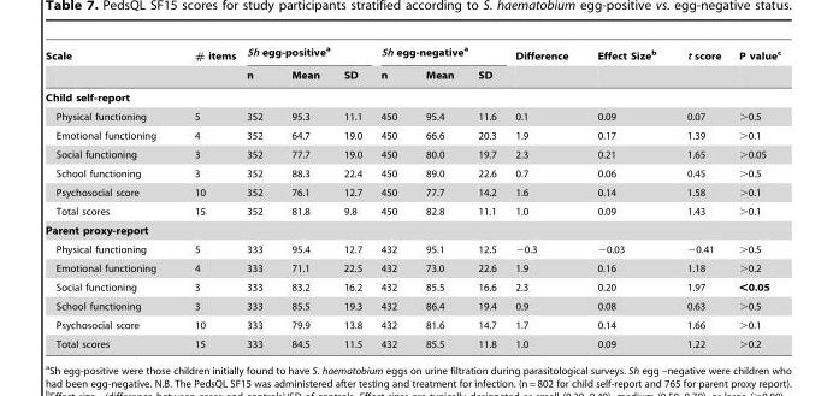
<table><thead><tr><td rowspan="2">Scale</td><td rowspan="2"># items</td><td colspan="3">Sh egg-positive<sup>a</sup></td><td colspan="3">Sh egg-negative<sup>a</sup></td><td rowspan="2">Difference</td><td rowspan="2">Effect Size<sup>b</sup></td><td rowspan="2">t score</td><td rowspan="2">P value<sup>c</sup></td></tr><tr><td>n</td><td>Mean</td><td>SD</td><td>n</td><td>Mean</td><td>SD</td></tr></thead><tbody><tr><td colspan="12">Child self-report</td></tr><tr><td>Physical functioning</td><td>5</td><td>352</td><td>95.3</td><td>11.1</td><td>450</td><td>95.4</td><td>11.6</td><td>0.1</td><td>0.09</td><td>0.07</td><td>&gt;0.5</td></tr><tr><td>Emotional functioning</td><td>4</td><td>352</td><td>64.7</td><td>19.0</td><td>450</td><td>66.6</td><td>20.3</td><td>1.9</td><td>0.17</td><td>1.39</td><td>&gt;0.1</td></tr><tr><td>Social functioning</td><td>3</td><td>352</td><td>77.7</td><td>19.0</td><td>450</td><td>80.0</td><td>19.7</td><td>2.3</td><td>0.21</td><td>1.65</td><td>&gt;0.05</td></tr><tr><td>School functioning</td><td>3</td><td>352</td><td>88.3</td><td>22.4</td><td>450</td><td>89.0</td><td>22.6</td><td>0.7</td><td>0.06</td><td>0.45</td><td>&gt;0.5</td></tr><tr><td>Psychosocial score</td><td>10</td><td>352</td><td>76.1</td><td>12.7</td><td>450</td><td>77.7</td><td>14.2</td><td>1.6</td><td>0.14</td><td>1.58</td><td>&gt;0.1</td></tr><tr><td>Total scores</td><td>15</td><td>352</td><td>81.8</td><td>9.8</td><td>450</td><td>82.8</td><td>11.1</td><td>1.0</td><td>0.09</td><td>1.43</td><td>&gt;0.1</td></tr><tr><td colspan="12">Parent proxy-report</td></tr><tr><td>Physical functioning</td><td>5</td><td>333</td><td>95.4</td><td>12.7</td><td>432</td><td>95.1</td><td>12.5</td><td>−0.3</td><td>−0.03</td><td>−0.41</td><td>&gt;0.5</td></tr><tr><td>Emotional functioning</td><td>4</td><td>333</td><td>71.1</td><td>22.5</td><td>432</td><td>73.0</td><td>22.6</td><td>1.9</td><td>0.16</td><td>1.18</td><td>&gt;0.2</td></tr><tr><td>Social functioning</td><td>3</td><td>333</td><td>83.2</td><td>16.2</td><td>432</td><td>85.5</td><td>16.6</td><td>2.3</td><td>0.20</td><td>1.97</td><td>&lt;0.05</td></tr><tr><td>School functioning</td><td>3</td><td>333</td><td>85.5</td><td>19.3</td><td>432</td><td>86.4</td><td>19.4</td><td>0.9</td><td>0.08</td><td>0.63</td><td>&gt;0.5</td></tr><tr><td>Psychosocial score</td><td>10</td><td>333</td><td>79.9</td><td>13.8</td><td>432</td><td>81.6</td><td>14.7</td><td>1.7</td><td>0.14</td><td>1.66</td><td>&gt;0.1</td></tr><tr><td>Total scores</td><td>15</td><td>333</td><td>84.5</td><td>11.5</td><td>432</td><td>85.5</td><td>11.8</td><td>1.0</td><td>0.09</td><td>1.22</td><td>&gt;0.2</td></tr></tbody></table>